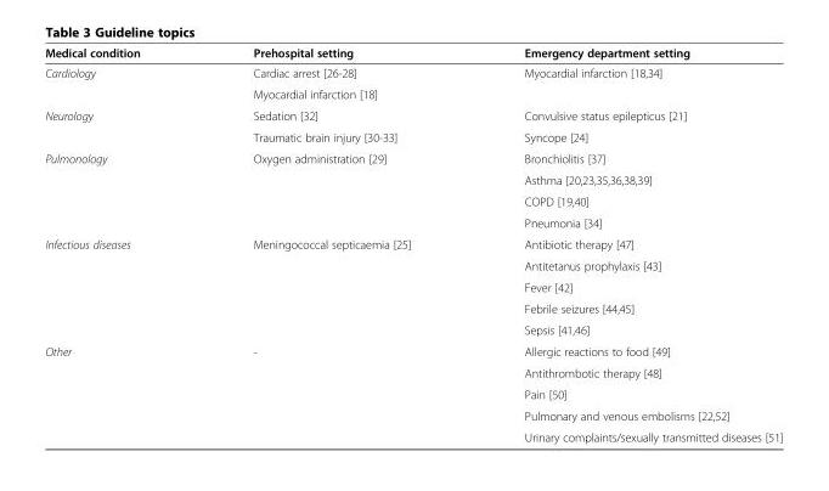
<table><thead><tr><td>Medical condition</td><td>Prehospital setting</td><td>Emergency department setting</td></tr></thead><tbody><tr><td rowspan="2">Cardiology</td><td>Cardiac arrest [26-28]</td><td>Myocardial infarction [18,34]</td></tr><tr><td>Myocardial infarction [18]</td><td></td></tr><tr><td rowspan="2">Neurology</td><td>Sedation [32]</td><td>Convulsive status epilepticus [21]</td></tr><tr><td>Traumatic brain injury [30-33]</td><td>Syncope [24]</td></tr><tr><td rowspan="4">Pulmonology</td><td>Oxygen administration [29]</td><td>Bronchiolitis [37]</td></tr><tr><td></td><td>Asthma [20,23,35,36,38,39]</td></tr><tr><td></td><td>COPD [19,40]</td></tr><tr><td></td><td>Pneumonia [34]</td></tr><tr><td rowspan="5">Infectious diseases</td><td>Meningococcal septicaemia [25]</td><td>Antibiotic therapy [47]</td></tr><tr><td></td><td>Antitetanus prophylaxis [43]</td></tr><tr><td></td><td>Fever [42]</td></tr><tr><td></td><td>Febrile seizures [44,45]</td></tr><tr><td></td><td>Sepsis [41,46]</td></tr><tr><td rowspan="5">Other</td><td>-</td><td>Allergic reactions to food [49]</td></tr><tr><td></td><td>Antithrombotic therapy [48]</td></tr><tr><td></td><td>Pain [50]</td></tr><tr><td></td><td>Pulmonary and venous embolisms [22,52]</td></tr><tr><td></td><td>Urinary complaints/sexually transmitted diseases [51]</td></tr></tbody></table>